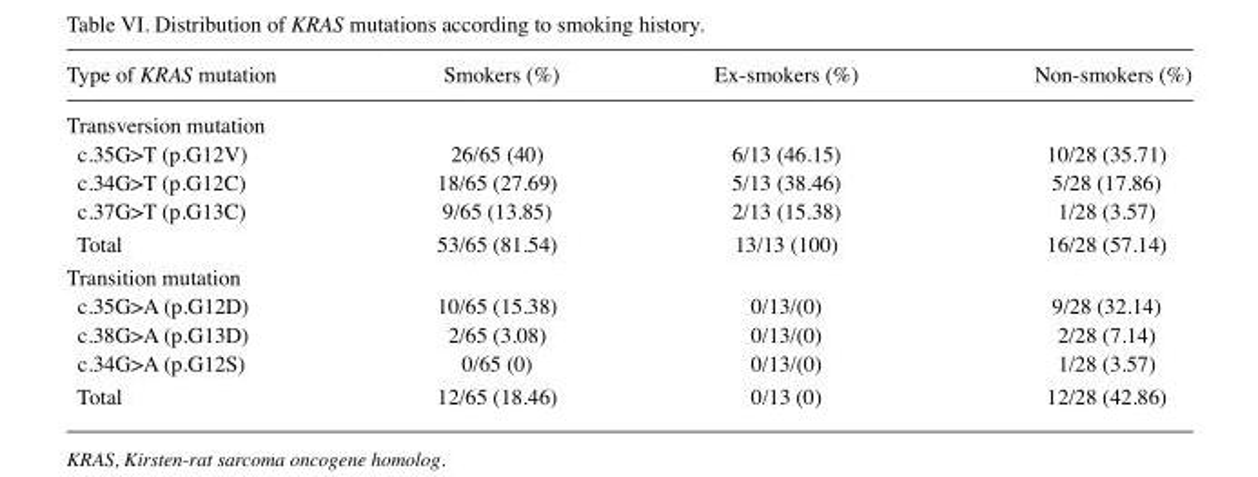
<table><thead><tr><td>Type of KRAS mutation</td><td>Smokers (%)</td><td>Ex-smokers (%)</td><td>Non-smokers (%)</td></tr></thead><tbody><tr><td colspan="4">Transversion mutation</td></tr><tr><td>c.35G&gt;T (p.G12V)</td><td>26/65 (40)</td><td>6/13 (46.15)</td><td>10/28 (35.71)</td></tr><tr><td>c.34G&gt;T (p.G12C)</td><td>18/65 (27.69)</td><td>5/13 (38.46)</td><td>5/28 (17.86)</td></tr><tr><td>c.37G&gt;T (p.G13C)</td><td>9/65 (13.85)</td><td>2/13 (15.38)</td><td>1/28 (3.57)</td></tr><tr><td>Total</td><td>53/65 (81.54)</td><td>13/13 (100)</td><td>16/28 (57.14)</td></tr><tr><td colspan="4">Transition mutation</td></tr><tr><td>c.35G&gt;A (p.G12D)</td><td>10/65 (15.38)</td><td>0/13/(0)</td><td>9/28 (32.14)</td></tr><tr><td>c.38G&gt;A (p.G13D)</td><td>2/65 (3.08)</td><td>0/13/(0)</td><td>2/28 (7.14)</td></tr><tr><td>c.34G&gt;A (p.G12S)</td><td>0/65 (0)</td><td>0/13/(0)</td><td>1/28 (3.57)</td></tr><tr><td>Total</td><td>12/65 (18.46)</td><td>0/13 (0)</td><td>12/28 (42.86)</td></tr></tbody></table>